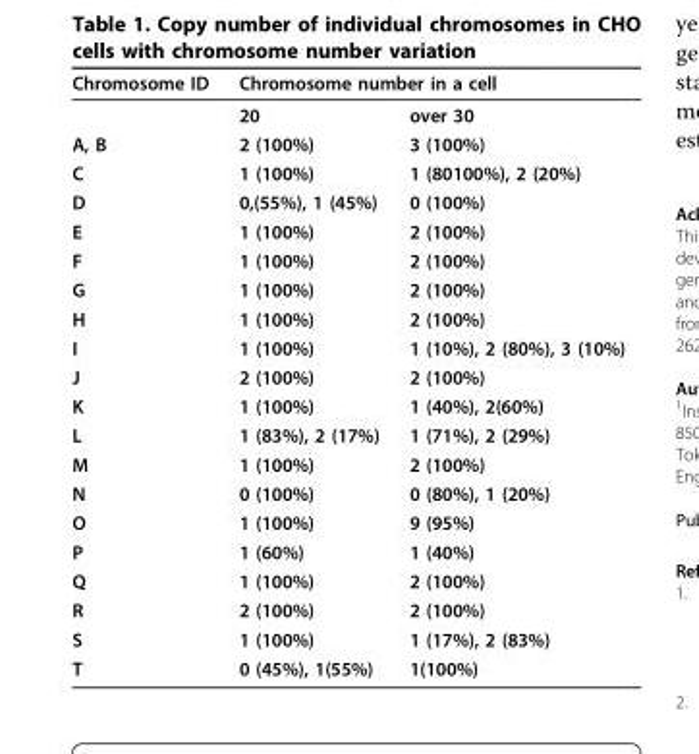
<table><thead><tr><td rowspan="2">Chromosome ID</td><td colspan="2">Chromosome number in a cell</td></tr><tr><td>20</td><td>over 30</td></tr></thead><tbody><tr><td>A, B</td><td>2 (100%)</td><td>3 (100%)</td></tr><tr><td>C</td><td>1 (100%)</td><td>1 (80100%), 2 (20%)</td></tr><tr><td>D</td><td>0,(55%), 1 (45%)</td><td>0 (100%)</td></tr><tr><td>E</td><td>1 (100%)</td><td>2 (100%)</td></tr><tr><td>F</td><td>1 (100%)</td><td>2 (100%)</td></tr><tr><td>G</td><td>1 (100%)</td><td>2 (100%)</td></tr><tr><td>H</td><td>1 (100%)</td><td>2 (100%)</td></tr><tr><td>I</td><td>1 (100%)</td><td>1 (10%), 2 (80%), 3 (10%)</td></tr><tr><td>J</td><td>2 (100%)</td><td>2 (100%)</td></tr><tr><td>K</td><td>1 (100%)</td><td>1 (40%), 2(60%)</td></tr><tr><td>L</td><td>1 (83%), 2 (17%)</td><td>1 (71%), 2 (29%)</td></tr><tr><td>M</td><td>1 (100%)</td><td>2 (100%)</td></tr><tr><td>N</td><td>0 (100%)</td><td>0 (80%), 1 (20%)</td></tr><tr><td>O</td><td>1 (100%)</td><td>9 (95%)</td></tr><tr><td>P</td><td>1 (60%)</td><td>1 (40%)</td></tr><tr><td>Q</td><td>1 (100%)</td><td>2 (100%)</td></tr><tr><td>R</td><td>2 (100%)</td><td>2 (100%)</td></tr><tr><td>S</td><td>1 (100%)</td><td>1 (17%), 2 (83%)</td></tr><tr><td>T</td><td>0 (45%), 1(55%)</td><td>1(100%)</td></tr></tbody></table>